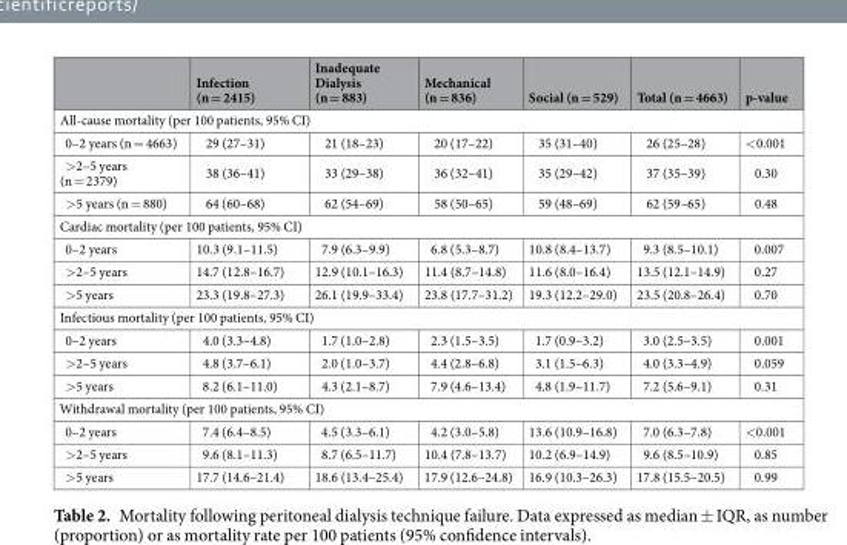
<table><thead><tr><td></td><td>Infection (n = 2415)</td><td>Inadequate Dialysis (n = 883)</td><td>Mechanical (n = 836)</td><td>Social (n = 529)</td><td>Total (n = 4663)</td><td>p-value</td></tr></thead><tbody><tr><td colspan="7">All-cause mortality (per 100 patients, 95% CI)</td></tr><tr><td>0–2 years (n = 4663)</td><td>29 (27–31)</td><td>21 (18–23)</td><td>20 (17–22)</td><td>35 (31–40)</td><td>26 (25–28)</td><td>&lt;0.001</td></tr><tr><td>&gt;2–5 years (n = 2379)</td><td>38 (36–41)</td><td>33 (29–38)</td><td>36 (32–41)</td><td>35 (29–42)</td><td>37 (35–39)</td><td>0.30</td></tr><tr><td>&gt;5 years (n = 880)</td><td>64 (60–68)</td><td>62 (54–69)</td><td>58 (50–65)</td><td>59 (48–69)</td><td>62 (59–65)</td><td>0.48</td></tr><tr><td colspan="7">Cardiac mortality (per 100 patients, 95% CI)</td></tr><tr><td>0–2 years</td><td>10.3 (9.1–11.5)</td><td>7.9 (6.3–9.9)</td><td>6.8 (5.3–8.7)</td><td>10.8 (8.4–13.7)</td><td>9.3 (8.5–10.1)</td><td>0.007</td></tr><tr><td>&gt;2–5 years</td><td>14.7 (12.8–16.7)</td><td>12.9 (10.1–16.3)</td><td>11.4 (8.7–14.8)</td><td>11.6 (8.0–16.4)</td><td>13.5 (12.1–14.9)</td><td>0.27</td></tr><tr><td>&gt;5 years</td><td>23.3 (19.8–27.3)</td><td>26.1 (19.9–33.4)</td><td>23.8 (17.7–31.2)</td><td>19.3 (12.2–29.0)</td><td>23.5 (20.8–26.4)</td><td>0.70</td></tr><tr><td colspan="7">Infectious mortality (per 100 patients, 95% CI)</td></tr><tr><td>0–2 years</td><td>4.0 (3.3–4.8)</td><td>1.7 (1.0–2.8)</td><td>2.3 (1.5–3.5)</td><td>1.7 (0.9–3.2)</td><td>3.0 (2.5–3.5)</td><td>0.001</td></tr><tr><td>&gt;2–5 years</td><td>4.8 (3.7–6.1)</td><td>2.0 (1.0–3.7)</td><td>4.4 (2.8–6.8)</td><td>3.1 (1.5–6.3)</td><td>4.0 (3.3–4.9)</td><td>0.059</td></tr><tr><td>&gt;5 years</td><td>8.2 (6.1–11.0)</td><td>4.3 (2.1–8.7)</td><td>7.9 (4.6–13.4)</td><td>4.8 (1.9–11.7)</td><td>7.2 (5.6–9.1)</td><td>0.31</td></tr><tr><td colspan="7">Withdrawal mortality (per 100 patients, 95% CI)</td></tr><tr><td>0–2 years</td><td>7.4 (6.4–8.5)</td><td>4.5 (3.3–6.1)</td><td>4.2 (3.0–5.8)</td><td>13.6 (10.9–16.8)</td><td>7.0 (6.3–7.8)</td><td>&lt;0.001</td></tr><tr><td>&gt;2–5 years</td><td>9.6 (8.1–11.3)</td><td>8.7 (6.5–11.7)</td><td>10.4 (7.8–13.7)</td><td>10.2 (6.9–14.9)</td><td>9.6 (8.5–10.9)</td><td>0.85</td></tr><tr><td>&gt;5 years</td><td>17.7 (14.6–21.4)</td><td>18.6 (13.4–25.4)</td><td>17.9 (12.6–24.8)</td><td>16.9 (10.3–26.3)</td><td>17.8 (15.5–20.5)</td><td>0.99</td></tr></tbody></table>